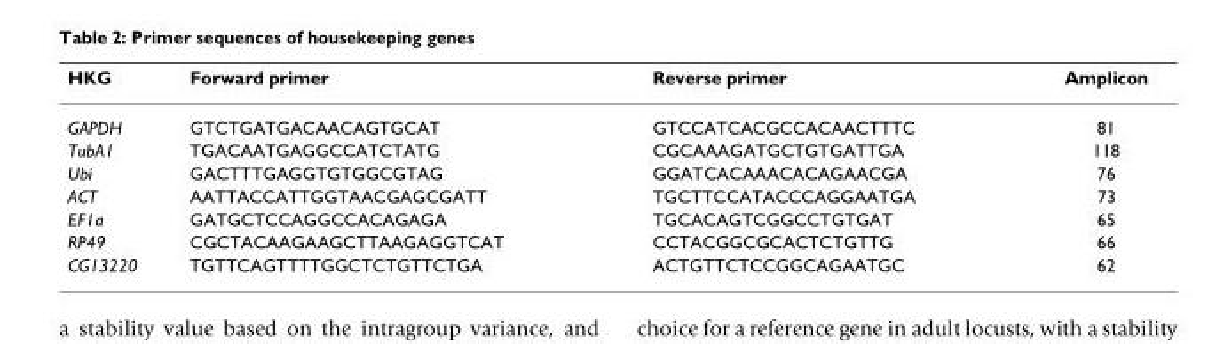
<table><thead><tr><td>HKG</td><td>Forward primer</td><td>Reverse primer</td><td>Amplicon</td></tr></thead><tbody><tr><td>GAPDH</td><td>GTCTGATGACAACAGTGCAT</td><td>GTCCATCACGCCACAACTTTC</td><td>81</td></tr><tr><td>TubA1</td><td>TGACAATGAGGCCATCTATG</td><td>CGCAAAGATGCTGTGATTGA</td><td>118</td></tr><tr><td>Ubi</td><td>GACTTTGAGGTGTGGCGTAG</td><td>GGATCACAAACACAGAACGA</td><td>76</td></tr><tr><td>ACT</td><td>AATTACCATTGGTAACGAGCGATT</td><td>TGCTTCCATACCCAGGAATGA</td><td>73</td></tr><tr><td>EF1a</td><td>GATGCTCCAGGCCACAGAGA</td><td>TGCACAGTCGGCCTGTGAT</td><td>65</td></tr><tr><td>RP49</td><td>CGCTACAAGAAGCTTAAGAGGTCAT</td><td>CCTACGGCGCACTCTGTTG</td><td>66</td></tr><tr><td>CG13220</td><td>TGTTCAGTTTTGGCTCTGTTCTGA</td><td>ACTGTTCTCCGGCAGAATGC</td><td>62</td></tr></tbody></table>